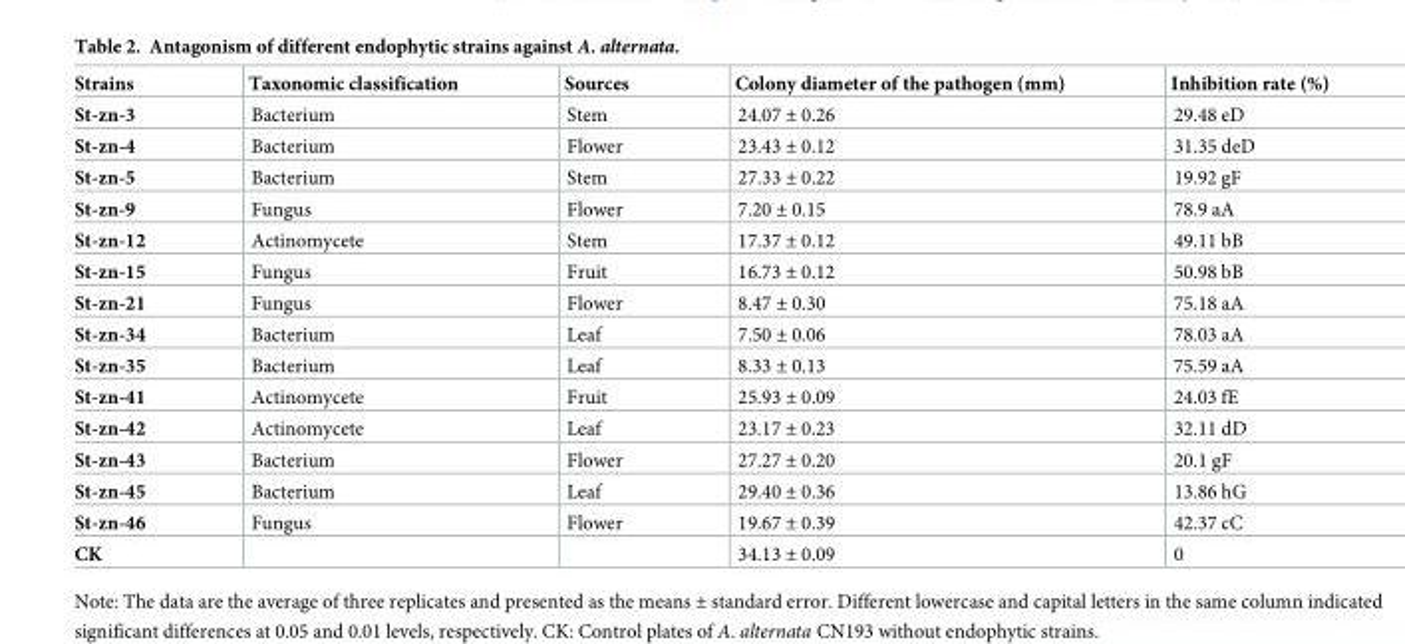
<table><thead><tr><td>Strains</td><td>Taxonomic classification</td><td>Sources</td><td>Colony diameter of the pathogen (mm)</td><td>Inhibition rate (%)</td></tr></thead><tbody><tr><td>St-zn-3</td><td>Bacterium</td><td>Stem</td><td>24.07 ± 0.26</td><td>29.48 eD</td></tr><tr><td>St-zn-4</td><td>Bacterium</td><td>Flower</td><td>23.43 ± 0.12</td><td>31.35 deD</td></tr><tr><td>St-zn-5</td><td>Bacterium</td><td>Stem</td><td>27.33 ± 0.22</td><td>19.92 gF</td></tr><tr><td>St-zn-9</td><td>Fungus</td><td>Flower</td><td>7.20 ± 0.15</td><td>78.9 aA</td></tr><tr><td>St-zn-12</td><td>Actinomycete</td><td>Stem</td><td>17.37 ± 0.12</td><td>49.11 bB</td></tr><tr><td>St-zn-15</td><td>Fungus</td><td>Fruit</td><td>16.73 ± 0.12</td><td>50.98 bB</td></tr><tr><td>St-zn-21</td><td>Fungus</td><td>Flower</td><td>8.47 ± 0.30</td><td>75.18 aA</td></tr><tr><td>St-zn-34</td><td>Bacterium</td><td>Leaf</td><td>7.50 ± 0.06</td><td>78.03 aA</td></tr><tr><td>St-zn-35</td><td>Bacterium</td><td>Leaf</td><td>8.33 ± 0.13</td><td>75.59 aA</td></tr><tr><td>St-zn-41</td><td>Actinomycete</td><td>Fruit</td><td>25.93 ± 0.09</td><td>24.03 fE</td></tr><tr><td>St-zn-42</td><td>Actinomycete</td><td>Leaf</td><td>23.17 ± 0.23</td><td>32.11 dD</td></tr><tr><td>St-zn-43</td><td>Bacterium</td><td>Flower</td><td>27.27 ± 0.20</td><td>20.1 gF</td></tr><tr><td>St-zn-45</td><td>Bacterium</td><td>Leaf</td><td>29.40 ± 0.36</td><td>13.86 hG</td></tr><tr><td>St-zn-46</td><td>Fungus</td><td>Flower</td><td>19.67 ± 0.39</td><td>42.37 cC</td></tr><tr><td>CK</td><td></td><td></td><td>34.13 ± 0.09</td><td>0</td></tr></tbody></table>